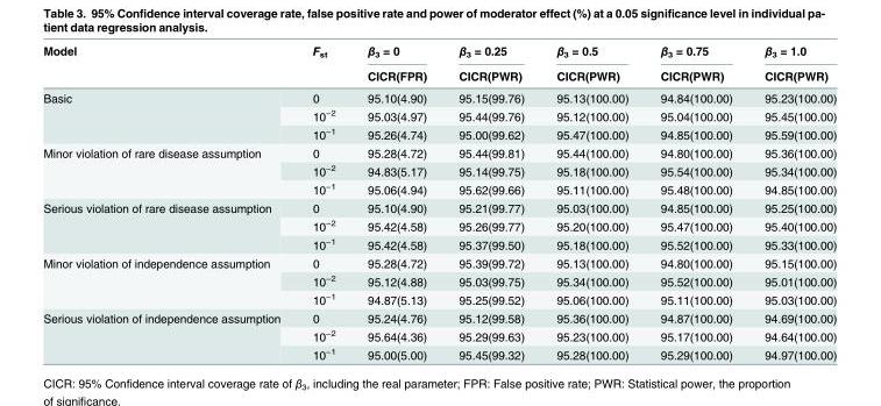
<table><thead><tr><td rowspan="2">Model</td><td rowspan="2">F<sub>st</sub></td><td rowspan="2">β<sub>3</sub> = 0 CICR(FPR)</td><td rowspan="2">β<sub>3</sub> = 0.25 CICR(PWR)</td><td rowspan="2">β<sub>3</sub> = 0.5 CICR(PWR)</td><td rowspan="2">β<sub>3</sub> = 0.75 CICR(PWR)</td><td rowspan="2">β<sub>3</sub> = 1.0 CICR(PWR)</td></tr><tr></tr></thead><tbody><tr><td rowspan="3">Basic</td><td>0</td><td>95.10(4.90)</td><td>95.15(99.76)</td><td>95.13(100.00)</td><td>94.84(100.00)</td><td>95.23(100.00)</td></tr><tr><td>10<sup>−2</sup></td><td>95.03(4.97)</td><td>95.44(99.76)</td><td>95.12(100.00)</td><td>95.04(100.00)</td><td>95.45(100.00)</td></tr><tr><td>10<sup>−1</sup></td><td>95.26(4.74)</td><td>95.00(99.62)</td><td>95.47(100.00)</td><td>94.85(100.00)</td><td>95.59(100.00)</td></tr><tr><td rowspan="3">Minor violation of rare disease assumption</td><td>0</td><td>95.28(4.72)</td><td>95.44(99.81)</td><td>95.44(100.00)</td><td>94.80(100.00)</td><td>95.36(100.00)</td></tr><tr><td>10<sup>−2</sup></td><td>94.83(5.17)</td><td>95.14(99.75)</td><td>95.18(100.00)</td><td>95.54(100.00)</td><td>95.34(100.00)</td></tr><tr><td>10<sup>−1</sup></td><td>95.06(4.94)</td><td>95.62(99.66)</td><td>95.11(100.00)</td><td>95.48(100.00)</td><td>94.85(100.00)</td></tr><tr><td rowspan="3">Serious violation of rare disease assumption</td><td>0</td><td>95.10(4.90)</td><td>95.21(99.77)</td><td>95.03(100.00)</td><td>94.85(100.00)</td><td>95.25(100.00)</td></tr><tr><td>10<sup>−2</sup></td><td>95.42(4.58)</td><td>95.26(99.77)</td><td>95.20(100.00)</td><td>95.47(100.00)</td><td>95.40(100.00)</td></tr><tr><td>10<sup>−1</sup></td><td>95.42(4.58)</td><td>95.37(99.50)</td><td>95.18(100.00)</td><td>95.52(100.00)</td><td>95.33(100.00)</td></tr><tr><td rowspan="3">Minor violation of independence assumption</td><td>0</td><td>95.28(4.72)</td><td>95.39(99.72)</td><td>95.13(100.00)</td><td>94.80(100.00)</td><td>95.15(100.00)</td></tr><tr><td>10<sup>−2</sup></td><td>95.12(4.88)</td><td>95.03(99.75)</td><td>95.34(100.00)</td><td>95.52(100.00)</td><td>95.01(100.00)</td></tr><tr><td>10<sup>−1</sup></td><td>94.87(5.13)</td><td>95.25(99.52)</td><td>95.06(100.00)</td><td>95.11(100.00)</td><td>95.03(100.00)</td></tr><tr><td rowspan="3">Serious violation of independence assumption</td><td>0</td><td>95.24(4.76)</td><td>95.12(99.58)</td><td>95.36(100.00)</td><td>94.87(100.00)</td><td>94.69(100.00)</td></tr><tr><td>10<sup>−2</sup></td><td>95.64(4.36)</td><td>95.29(99.63)</td><td>95.23(100.00)</td><td>95.17(100.00)</td><td>94.64(100.00)</td></tr><tr><td>10<sup>−1</sup></td><td>95.00(5.00)</td><td>95.45(99.32)</td><td>95.28(100.00)</td><td>95.29(100.00)</td><td>94.97(100.00)</td></tr></tbody></table>